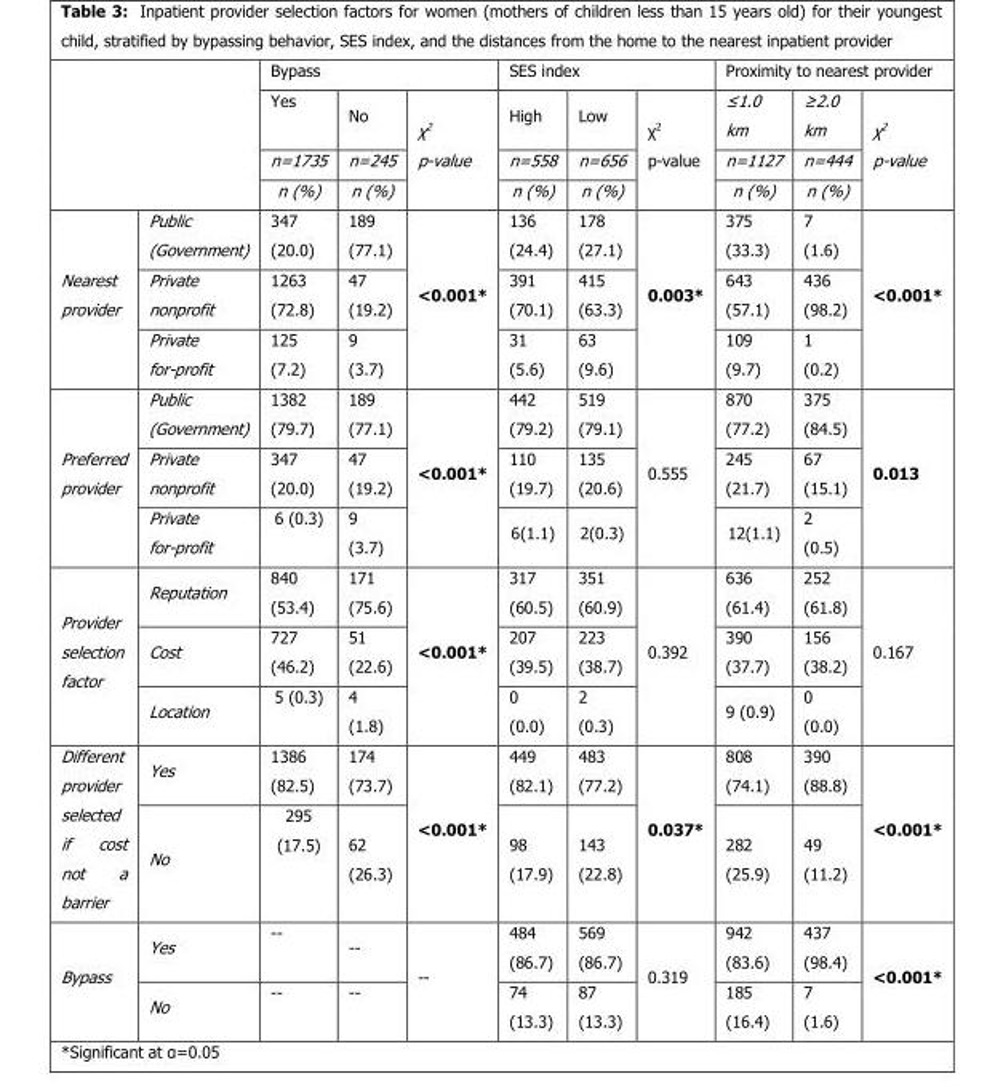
<table><thead><tr><td rowspan="4"></td><td rowspan="4"></td><td colspan="3">Bypass</td><td colspan="3">SES index</td><td colspan="3">Proximity to nearest provider</td></tr><tr><td rowspan="3">Yes n=1735 n (%)</td><td rowspan="3">No n=245 n (%)</td><td rowspan="3">χ2 p-value</td><td rowspan="3">High n=558 n (%)</td><td rowspan="3">Low n=656 n (%)</td><td rowspan="3">χ2 p-value</td><td rowspan="3">≤1.0 km n=1127 n (%)</td><td rowspan="3">≥2.0 km n=444 n (%)</td><td rowspan="3">χ2 p-value</td></tr><tr></tr><tr></tr></thead><tbody><tr><td rowspan="3">Nearest provider</td><td>Public (Government)</td><td>347 (20.0)</td><td>189 (77.1)</td><td rowspan="3">&lt;0.001*</td><td>136 (24.4)</td><td>178 (27.1)</td><td rowspan="3">0.003*</td><td>375 (33.3)</td><td>7 (1.6)</td><td rowspan="3">&lt;0.001*</td></tr><tr><td>Private nonprofit</td><td>1263 (72.8)</td><td>47 (19.2)</td><td>391 (70.1)</td><td>415 (63.3)</td><td>643 (57.1)</td><td>436 (98.2)</td></tr><tr><td>Private for-profit</td><td>125 (7.2)</td><td>9 (3.7)</td><td>31 (5.6)</td><td>63 (9.6)</td><td>109 (9.7)</td><td>1 (0.2)</td></tr><tr><td rowspan="3">Preferred provider</td><td>Public (Government)</td><td>1382 (79.7)</td><td>189 (77.1)</td><td rowspan="3">&lt;0.001*</td><td>442 (79.2)</td><td>519 (79.1)</td><td rowspan="3">0.555</td><td>870 (77.2)</td><td>375 (84.5)</td><td rowspan="3">0.013</td></tr><tr><td>Private nonprofit</td><td>347 (20.0)</td><td>47 (19.2)</td><td>110 (19.7)</td><td>135 (20.6)</td><td>245 (21.7)</td><td>67 (15.1)</td></tr><tr><td>Private for-profit</td><td>6 (0.3)</td><td>9 (3.7)</td><td>6(1.1)</td><td>2(0.3)</td><td>12(1.1)</td><td>2 (0.5)</td></tr><tr><td rowspan="3">Provider selection factor</td><td>Reputation</td><td>840 (53.4)</td><td>171 (75.6)</td><td rowspan="3">&lt;0.001*</td><td>317 (60.5)</td><td>351 (60.9)</td><td rowspan="3">0.392</td><td>636 (61.4)</td><td>252 (61.8)</td><td rowspan="3">0.167</td></tr><tr><td>Cost</td><td>727 (46.2)</td><td>51 (22.6)</td><td>207 (39.5)</td><td>223 (38.7)</td><td>390 (37.7)</td><td>156 (38.2)</td></tr><tr><td>Location</td><td>5 (0.3)</td><td>4 (1.8)</td><td>0 (0.0)</td><td>2 (0.3)</td><td>9 (0.9)</td><td>0 (0.0)</td></tr><tr><td rowspan="2">Different provider selected if cost not a barrier</td><td>Yes</td><td>1386 (82.5)</td><td>174 (73.7)</td><td rowspan="2">&lt;0.001*</td><td>449 (82.1)</td><td>483 (77.2)</td><td rowspan="2">0.037*</td><td>808 (74.1)</td><td>390 (88.8)</td><td rowspan="2">&lt;0.001*</td></tr><tr><td>No</td><td>295 (17.5)</td><td>62 (26.3)</td><td>98 (17.9)</td><td>143 (22.8)</td><td>282 (25.9)</td><td>49 (11.2)</td></tr><tr><td rowspan="2">Bypass</td><td>Yes</td><td>--</td><td>--</td><td rowspan="2">--</td><td>484 (86.7)</td><td>569 (86.7)</td><td rowspan="2">0.319</td><td>942 (83.6)</td><td>437 (98.4)</td><td rowspan="2">&lt;0.001*</td></tr><tr><td>No</td><td>--</td><td>--</td><td>74 (13.3)</td><td>87 (13.3)</td><td>185 (16.4)</td><td>7 (1.6)</td></tr></tbody></table>